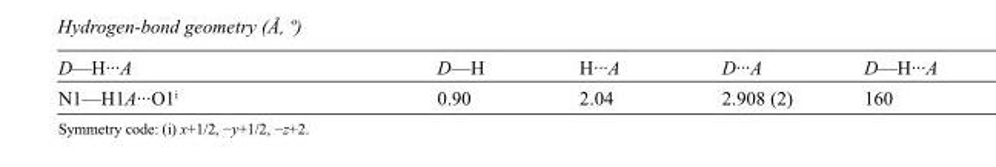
<table><tbody><tr><td>D—H···A</td><td>D—H</td><td>H···A</td><td>D···A</td><td>D—H···A</td></tr><tr><td>N1—H1A···O1<sup>i</sup></td><td>0.90</td><td>2.04</td><td>2.908 (2)</td><td>160</td></tr></tbody></table>